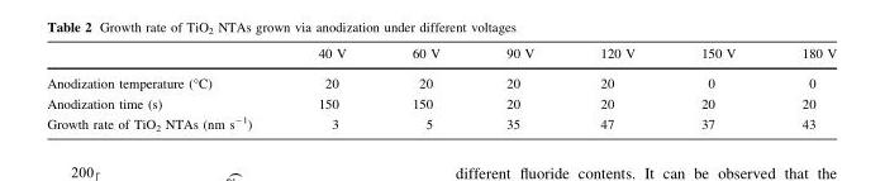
<table><thead><tr><td></td><td>40 V</td><td>60 V</td><td>90 V</td><td>120 V</td><td>150 V</td><td>180 V</td></tr></thead><tbody><tr><td>Anodization temperature (°C)</td><td>20</td><td>20</td><td>20</td><td>20</td><td>0</td><td>0</td></tr><tr><td>Anodization time (s)</td><td>150</td><td>150</td><td>20</td><td>20</td><td>20</td><td>20</td></tr><tr><td>Growth rate of TiO<sub>2</sub> NTAs (nm s<sup>-1</sup>)</td><td>3</td><td>5</td><td>35</td><td>47</td><td>37</td><td>43</td></tr></tbody></table>